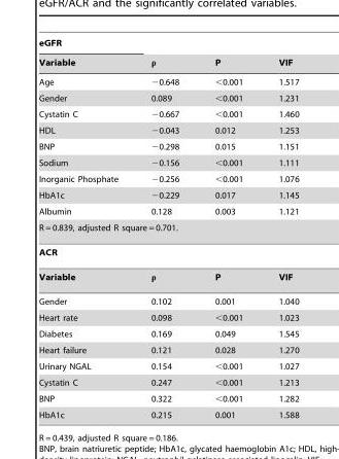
<table><thead><tr><td rowspan="2">eGFR Variable</td><td rowspan="2">ρ</td><td rowspan="2">P</td><td rowspan="2">VIF</td></tr><tr></tr></thead><tbody><tr><td>Age</td><td>−0.648</td><td>&lt;0.001</td><td>1.517</td></tr><tr><td>Gender</td><td>0.089</td><td>&lt;0.001</td><td>1.231</td></tr><tr><td>Cystatin C</td><td>−0.667</td><td>&lt;0.001</td><td>1.460</td></tr><tr><td>HDL</td><td>−0.043</td><td>0.012</td><td>1.253</td></tr><tr><td>BNP</td><td>−0.298</td><td>0.015</td><td>1.151</td></tr><tr><td>Sodium</td><td>−0.156</td><td>&lt;0.001</td><td>1.111</td></tr><tr><td>Inorganic Phosphate</td><td>−0.256</td><td>&lt;0.001</td><td>1.076</td></tr><tr><td>HbA1c</td><td>−0.229</td><td>0.017</td><td>1.145</td></tr><tr><td>Albumin</td><td>0.128</td><td>0.003</td><td>1.121</td></tr><tr><td colspan="4">R = 0.839, adjusted R square = 0.701.</td></tr><tr><td colspan="4">ACR</td></tr><tr><td>Variable</td><td>ρ</td><td>P</td><td>VIF</td></tr><tr><td>Gender</td><td>0.102</td><td>0.001</td><td>1.040</td></tr><tr><td>Heart rate</td><td>0.098</td><td>&lt;0.001</td><td>1.023</td></tr><tr><td>Diabetes</td><td>0.169</td><td>0.049</td><td>1.545</td></tr><tr><td>Heart failure</td><td>0.121</td><td>0.028</td><td>1.270</td></tr><tr><td>Urinary NGAL</td><td>0.154</td><td>&lt;0.001</td><td>1.027</td></tr><tr><td>Cystatin C</td><td>0.247</td><td>&lt;0.001</td><td>1.213</td></tr><tr><td>BNP</td><td>0.322</td><td>&lt;0.001</td><td>1.282</td></tr><tr><td>HbA1c</td><td>0.215</td><td>0.001</td><td>1.588</td></tr></tbody></table>